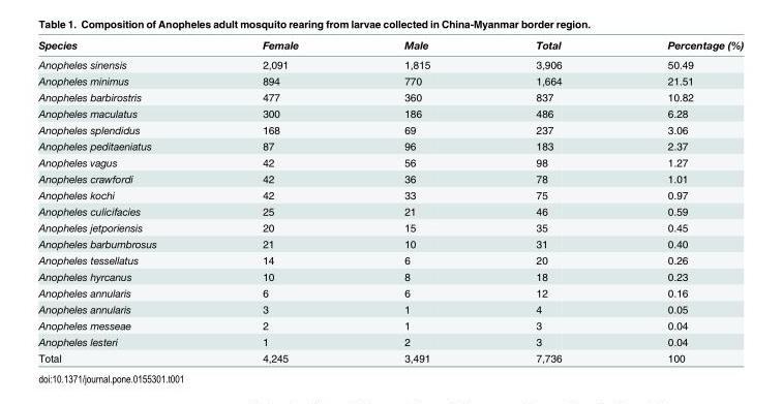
<table><thead><tr><td>Species</td><td>Female</td><td>Male</td><td>Total</td><td>Percentage (%)</td></tr></thead><tbody><tr><td>Anopheles sinensis</td><td>2,091</td><td>1,815</td><td>3,906</td><td>50.49</td></tr><tr><td>Anopheles minimus</td><td>894</td><td>770</td><td>1,664</td><td>21.51</td></tr><tr><td>Anopheles barbirostris</td><td>477</td><td>360</td><td>837</td><td>10.82</td></tr><tr><td>Anopheles maculatus</td><td>300</td><td>186</td><td>486</td><td>6.28</td></tr><tr><td>Anopheles splendidus</td><td>168</td><td>69</td><td>237</td><td>3.06</td></tr><tr><td>Anopheles peditaeniatus</td><td>87</td><td>96</td><td>183</td><td>2.37</td></tr><tr><td>Anopheles vagus</td><td>42</td><td>56</td><td>98</td><td>1.27</td></tr><tr><td>Anopheles crawfordi</td><td>42</td><td>36</td><td>78</td><td>1.01</td></tr><tr><td>Anopheles kochi</td><td>42</td><td>33</td><td>75</td><td>0.97</td></tr><tr><td>Anopheles culicifacies</td><td>25</td><td>21</td><td>46</td><td>0.59</td></tr><tr><td>Anopheles jetporiensis</td><td>20</td><td>15</td><td>35</td><td>0.45</td></tr><tr><td>Anopheles barbumbrosus</td><td>21</td><td>10</td><td>31</td><td>0.40</td></tr><tr><td>Anopheles tessellatus</td><td>14</td><td>6</td><td>20</td><td>0.26</td></tr><tr><td>Anopheles hyrcanus</td><td>10</td><td>8</td><td>18</td><td>0.23</td></tr><tr><td>Anopheles annularis</td><td>6</td><td>6</td><td>12</td><td>0.16</td></tr><tr><td>Anopheles annularis</td><td>3</td><td>1</td><td>4</td><td>0.05</td></tr><tr><td>Anopheles messeae</td><td>2</td><td>1</td><td>3</td><td>0.04</td></tr><tr><td>Anopheles lesteri</td><td>1</td><td>2</td><td>3</td><td>0.04</td></tr><tr><td>Total</td><td>4,245</td><td>3,491</td><td>7,736</td><td>100</td></tr></tbody></table>